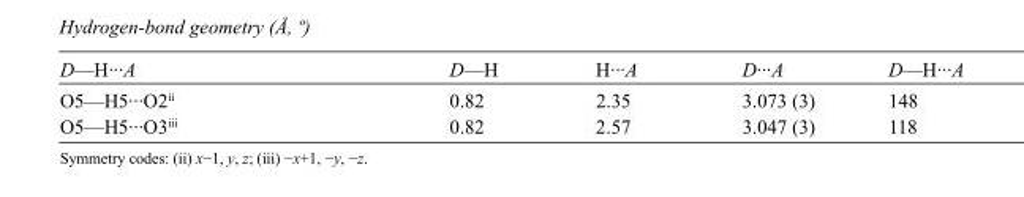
<table><tbody><tr><td>D—H···A</td><td>D—H</td><td>H···A</td><td>D···A</td><td>D—H···A</td></tr><tr><td>O5—H5···O2<sup>ii</sup></td><td>0.82</td><td>2.35</td><td>3.073 (3)</td><td>148</td></tr><tr><td>O5—H5···O3<sup>iii</sup></td><td>0.82</td><td>2.57</td><td>3.047 (3)</td><td>118</td></tr></tbody></table>